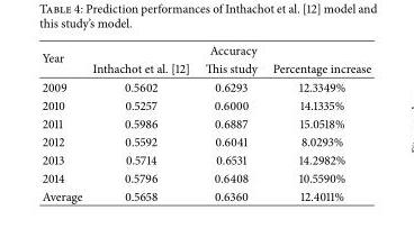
<table><thead><tr><td rowspan="2">Year</td><td colspan="3">Accuracy</td></tr><tr><td>Inthachot et al. [12]</td><td>This study</td><td>Percentage increase</td></tr></thead><tbody><tr><td>2009</td><td>0.5602</td><td>0.6293</td><td>12.3349%</td></tr><tr><td>2010</td><td>0.5257</td><td>0.6000</td><td>14.1335%</td></tr><tr><td>2011</td><td>0.5986</td><td>0.6887</td><td>15.0518%</td></tr><tr><td>2012</td><td>0.5592</td><td>0.6041</td><td>8.0293%</td></tr><tr><td>2013</td><td>0.5714</td><td>0.6531</td><td>14.2982%</td></tr><tr><td>2014</td><td>0.5796</td><td>0.6408</td><td>10.5590%</td></tr><tr><td>Average</td><td>0.5658</td><td>0.6360</td><td>12.4011%</td></tr></tbody></table>